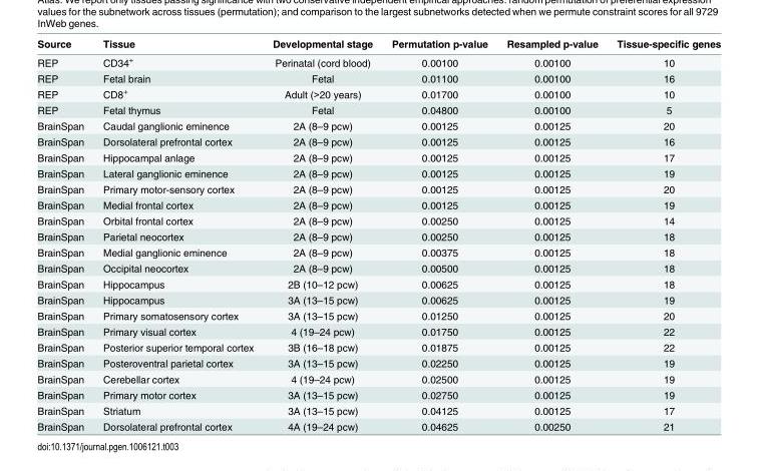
<table><thead><tr><td>Source</td><td>Tissue</td><td>Developmental stage</td><td>Permutation p-value</td><td>Resampled p-value</td><td>Tissue-specific genes</td></tr></thead><tbody><tr><td>REP</td><td>CD34<sup>+</sup></td><td>Perinatal (cord blood)</td><td>0.00100</td><td>0.00100</td><td>10</td></tr><tr><td>REP</td><td>Fetal brain</td><td>Fetal</td><td>0.01100</td><td>0.00100</td><td>16</td></tr><tr><td>REP</td><td>CD8<sup>+</sup></td><td>Adult (&gt;20 years)</td><td>0.01700</td><td>0.00100</td><td>10</td></tr><tr><td>REP</td><td>Fetal thymus</td><td>Fetal</td><td>0.04800</td><td>0.00100</td><td>5</td></tr><tr><td>BrainSpan</td><td>Caudal ganglionic eminence</td><td>2A (8–9 pcw)</td><td>0.00125</td><td>0.00125</td><td>20</td></tr><tr><td>BrainSpan</td><td>Dorsolateral prefrontal cortex</td><td>2A (8–9 pcw)</td><td>0.00125</td><td>0.00125</td><td>16</td></tr><tr><td>BrainSpan</td><td>Hippocampal anlage</td><td>2A (8–9 pcw)</td><td>0.00125</td><td>0.00125</td><td>17</td></tr><tr><td>BrainSpan</td><td>Lateral ganglionic eminence</td><td>2A (8–9 pcw)</td><td>0.00125</td><td>0.00125</td><td>19</td></tr><tr><td>BrainSpan</td><td>Primary motor-sensory cortex</td><td>2A (8–9 pcw)</td><td>0.00125</td><td>0.00125</td><td>20</td></tr><tr><td>BrainSpan</td><td>Medial frontal cortex</td><td>2A (8–9 pcw)</td><td>0.00125</td><td>0.00125</td><td>19</td></tr><tr><td>BrainSpan</td><td>Orbital frontal cortex</td><td>2A (8–9 pcw)</td><td>0.00250</td><td>0.00125</td><td>14</td></tr><tr><td>BrainSpan</td><td>Parietal neocortex</td><td>2A (8–9 pcw)</td><td>0.00250</td><td>0.00125</td><td>18</td></tr><tr><td>BrainSpan</td><td>Medial ganglionic eminence</td><td>2A (8–9 pcw)</td><td>0.00375</td><td>0.00125</td><td>18</td></tr><tr><td>BrainSpan</td><td>Occipital neocortex</td><td>2A (8–9 pcw)</td><td>0.00500</td><td>0.00125</td><td>18</td></tr><tr><td>BrainSpan</td><td>Hippocampus</td><td>2B (10–12 pcw)</td><td>0.00625</td><td>0.00125</td><td>18</td></tr><tr><td>BrainSpan</td><td>Hippocampus</td><td>3A (13–15 pcw)</td><td>0.00625</td><td>0.00125</td><td>19</td></tr><tr><td>BrainSpan</td><td>Primary somatosensory cortex</td><td>3A (13–15 pcw)</td><td>0.01250</td><td>0.00125</td><td>20</td></tr><tr><td>BrainSpan</td><td>Primary visual cortex</td><td>4 (19–24 pcw)</td><td>0.01750</td><td>0.00125</td><td>22</td></tr><tr><td>BrainSpan</td><td>Posterior superior temporal cortex</td><td>3B (16–18 pcw)</td><td>0.01875</td><td>0.00125</td><td>22</td></tr><tr><td>BrainSpan</td><td>Posteroventral parietal cortex</td><td>3A (13–15 pcw)</td><td>0.02250</td><td>0.00125</td><td>19</td></tr><tr><td>BrainSpan</td><td>Cerebellar cortex</td><td>4 (19–24 pcw)</td><td>0.02500</td><td>0.00125</td><td>19</td></tr><tr><td>BrainSpan</td><td>Primary motor cortex</td><td>3A (13–15 pcw)</td><td>0.02750</td><td>0.00125</td><td>19</td></tr><tr><td>BrainSpan</td><td>Striatum</td><td>3A (13–15 pcw)</td><td>0.04125</td><td>0.00125</td><td>17</td></tr><tr><td>BrainSpan</td><td>Dorsolateral prefrontal cortex</td><td>4A (19–24 pcw)</td><td>0.04625</td><td>0.00250</td><td>21</td></tr></tbody></table>